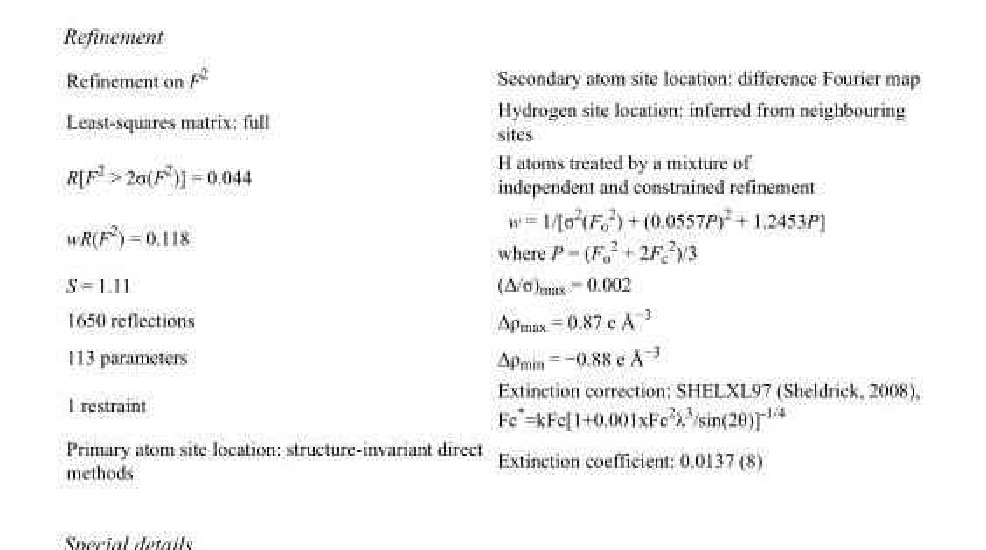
<table><tbody><tr><td>Refinement on F<sup>2</sup></td><td>Secondary atom site location: difference Fourier map</td></tr><tr><td>Least-squares matrix: full</td><td>Hydrogen site location: inferred from neighbouring sites</td></tr><tr><td>R[F<sup>2</sup> &gt; 2σ(F<sup>2</sup>)] = 0.044</td><td>H atoms treated by a mixture of independent and constrained refinement</td></tr><tr><td>wR(F<sup>2</sup>) = 0.118</td><td>w = 1/[σ<sup>2</sup>(F<sub>o</sub> <sup>2</sup>) + (0.0557P)<sup>2</sup> + 1.2453P] where P = (F<sub>o</sub> <sup>2</sup> + 2F<sub>c</sub> <sup>2</sup>)/3</td></tr><tr><td>S = 1.11</td><td>(Δ/σ)<sub>max</sub> = 0.002</td></tr><tr><td>1650 reflections</td><td>Δρ<sub>max</sub> = 0.87 e Å<sup>−3</sup></td></tr><tr><td>113 parameters</td><td>Δρ<sub>min</sub> = −0.88 e Å<sup>−3</sup></td></tr><tr><td>1 restraint</td><td>Extinction correction: SHELXL97 (Sheldrick, 2008), Fc*=kFc[1+0.001xFc<sup>2</sup>λ<sup>3</sup>/sin(2θ)]<sup>-1/4</sup></td></tr><tr><td>Primary atom site location: structure-invariant direct methods</td><td>Extinction coefficient: 0.0137 (8)</td></tr></tbody></table>